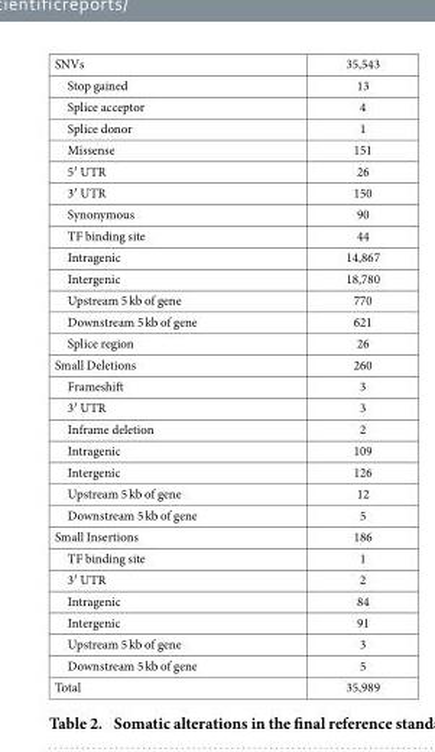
<table><tbody><tr><td>SNVs</td><td>35,543</td></tr><tr><td>Stop gained</td><td>13</td></tr><tr><td>Splice acceptor</td><td>4</td></tr><tr><td>Splice donor</td><td>1</td></tr><tr><td>Missense</td><td>151</td></tr><tr><td>5′ UTR</td><td>26</td></tr><tr><td>3′ UTR</td><td>150</td></tr><tr><td>Synonymous</td><td>90</td></tr><tr><td>TF binding site</td><td>44</td></tr><tr><td>Intragenic</td><td>14,867</td></tr><tr><td>Intergenic</td><td>18,780</td></tr><tr><td>Upstream 5 kb of gene</td><td>770</td></tr><tr><td>Downstream 5 kb of gene</td><td>621</td></tr><tr><td>Splice region</td><td>26</td></tr><tr><td>Small Deletions</td><td>260</td></tr><tr><td>Frameshift</td><td>3</td></tr><tr><td>3′ UTR</td><td>3</td></tr><tr><td>Inframe deletion</td><td>2</td></tr><tr><td>Intragenic</td><td>109</td></tr><tr><td>Intergenic</td><td>126</td></tr><tr><td>Upstream 5 kb of gene</td><td>12</td></tr><tr><td>Downstream 5 kb of gene</td><td>5</td></tr><tr><td>Small Insertions</td><td>186</td></tr><tr><td>TF binding site</td><td>1</td></tr><tr><td>3′ UTR</td><td>2</td></tr><tr><td>Intragenic</td><td>84</td></tr><tr><td>Intergenic</td><td>91</td></tr><tr><td>Upstream 5 kb of gene</td><td>3</td></tr><tr><td>Downstream 5 kb of gene</td><td>5</td></tr><tr><td>Total</td><td>35,989</td></tr></tbody></table>